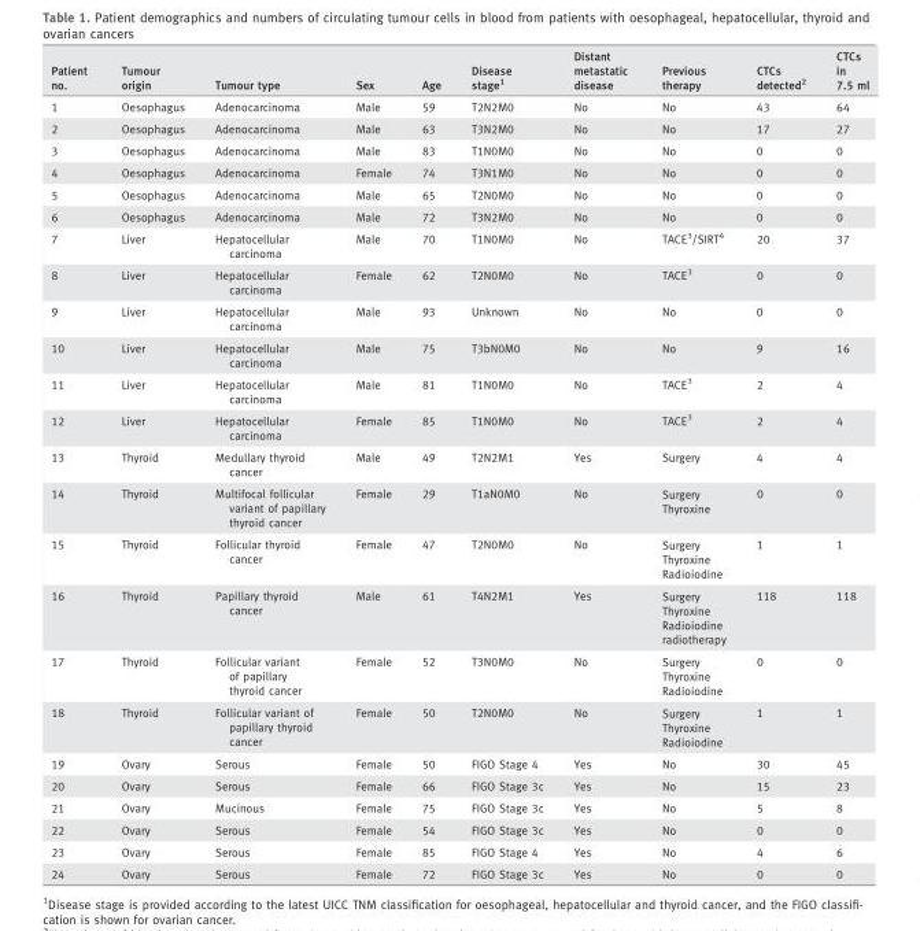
<table><thead><tr><td>Patient no.</td><td>Tumour origin</td><td>Tumour type</td><td>Sex</td><td>Age</td><td>Disease stage1</td><td>Distant metastatic disease</td><td>Previous therapy</td><td>CTCs detected2</td><td>CTCs in 7.5 ml</td></tr></thead><tbody><tr><td>1</td><td>Oesophagus</td><td>Adenocarcinoma</td><td>Male</td><td>59</td><td>T2N2M0</td><td>No</td><td>No</td><td>43</td><td>64</td></tr><tr><td>2</td><td>Oesophagus</td><td>Adenocarcinoma</td><td>Male</td><td>63</td><td>T3N2M0</td><td>No</td><td>No</td><td>17</td><td>27</td></tr><tr><td>3</td><td>Oesophagus</td><td>Adenocarcinoma</td><td>Male</td><td>83</td><td>T1N0M0</td><td>No</td><td>No</td><td>0</td><td>0</td></tr><tr><td>4</td><td>Oesophagus</td><td>Adenocarcinoma</td><td>Female</td><td>74</td><td>T3N1M0</td><td>No</td><td>No</td><td>0</td><td>0</td></tr><tr><td>5</td><td>Oesophagus</td><td>Adenocarcinoma</td><td>Male</td><td>65</td><td>T2N0M0</td><td>No</td><td>No</td><td>0</td><td>0</td></tr><tr><td>6</td><td>Oesophagus</td><td>Adenocarcinoma</td><td>Male</td><td>72</td><td>T3N2M0</td><td>No</td><td>No</td><td>0</td><td>0</td></tr><tr><td>7</td><td>Liver</td><td>Hepatocellular carcinoma</td><td>Male</td><td>70</td><td>T1N0M0</td><td>No</td><td>TACE3/SIRT4</td><td>20</td><td>37</td></tr><tr><td>8</td><td>Liver</td><td>Hepatocellular carcinoma</td><td>Female</td><td>62</td><td>T2N0M0</td><td>No</td><td>TACE3</td><td>0</td><td>0</td></tr><tr><td>9</td><td>Liver</td><td>Hepatocellular carcinoma</td><td>Male</td><td>93</td><td>Unknown</td><td>No</td><td>No</td><td>0</td><td>0</td></tr><tr><td>10</td><td>Liver</td><td>Hepatocellular carcinoma</td><td>Male</td><td>75</td><td>T3bN0M0</td><td>No</td><td>No</td><td>9</td><td>16</td></tr><tr><td>11</td><td>Liver</td><td>Hepatocellular carcinoma</td><td>Male</td><td>81</td><td>T1N0M0</td><td>No</td><td>TACE3</td><td>2</td><td>4</td></tr><tr><td>12</td><td>Liver</td><td>Hepatocellular carcinoma</td><td>Female</td><td>85</td><td>T1N0M0</td><td>No</td><td>TACE3</td><td>2</td><td>4</td></tr><tr><td>13</td><td>Thyroid</td><td>Medullary thyroid cancer</td><td>Male</td><td>49</td><td>T2N2M1</td><td>Yes</td><td>Surgery</td><td>4</td><td>4</td></tr><tr><td>14</td><td>Thyroid</td><td>Multifocal follicular variant of papillary thyroid cancer</td><td>Female</td><td>29</td><td>T1aN0M0</td><td>No</td><td>Surgery Thyroxine</td><td>0</td><td>0</td></tr><tr><td>15</td><td>Thyroid</td><td>Follicular thyroid cancer</td><td>Female</td><td>47</td><td>T2N0M0</td><td>No</td><td>Surgery Thyroxine Radioiodine</td><td>1</td><td>1</td></tr><tr><td>16</td><td>Thyroid</td><td>Papillary thyroid cancer</td><td>Male</td><td>61</td><td>T4N2M1</td><td>Yes</td><td>Surgery Thyroxine Radioiodine radiotherapy</td><td>118</td><td>118</td></tr><tr><td>17</td><td>Thyroid</td><td>Follicular variant of papillary thyroid cancer</td><td>Female</td><td>52</td><td>T3N0M0</td><td>No</td><td>Surgery Thyroxine Radioiodine</td><td>0</td><td>0</td></tr><tr><td>18</td><td>Thyroid</td><td>Follicular variant of papillary thyroid cancer</td><td>Female</td><td>50</td><td>T2N0M0</td><td>No</td><td>Surgery Thyroxine Radioiodine</td><td>1</td><td>1</td></tr><tr><td>19</td><td>Ovary</td><td>Serous</td><td>Female</td><td>50</td><td>FIGO Stage 4</td><td>Yes</td><td>No</td><td>30</td><td>45</td></tr><tr><td>20</td><td>Ovary</td><td>Serous</td><td>Female</td><td>66</td><td>FIGO Stage 3c</td><td>Yes</td><td>No</td><td>15</td><td>23</td></tr><tr><td>21</td><td>Ovary</td><td>Mucinous</td><td>Female</td><td>75</td><td>FIGO Stage 3c</td><td>Yes</td><td>No</td><td>5</td><td>8</td></tr><tr><td>22</td><td>Ovary</td><td>Serous</td><td>Female</td><td>54</td><td>FIGO Stage 3c</td><td>Yes</td><td>No</td><td>0</td><td>0</td></tr><tr><td>23</td><td>Ovary</td><td>Serous</td><td>Female</td><td>85</td><td>FIGO Stage 4</td><td>Yes</td><td>No</td><td>4</td><td>6</td></tr><tr><td>24</td><td>Ovary</td><td>Serous</td><td>Female</td><td>72</td><td>FIGO Stage 3c</td><td>Yes</td><td>No</td><td>0</td><td>0</td></tr></tbody></table>